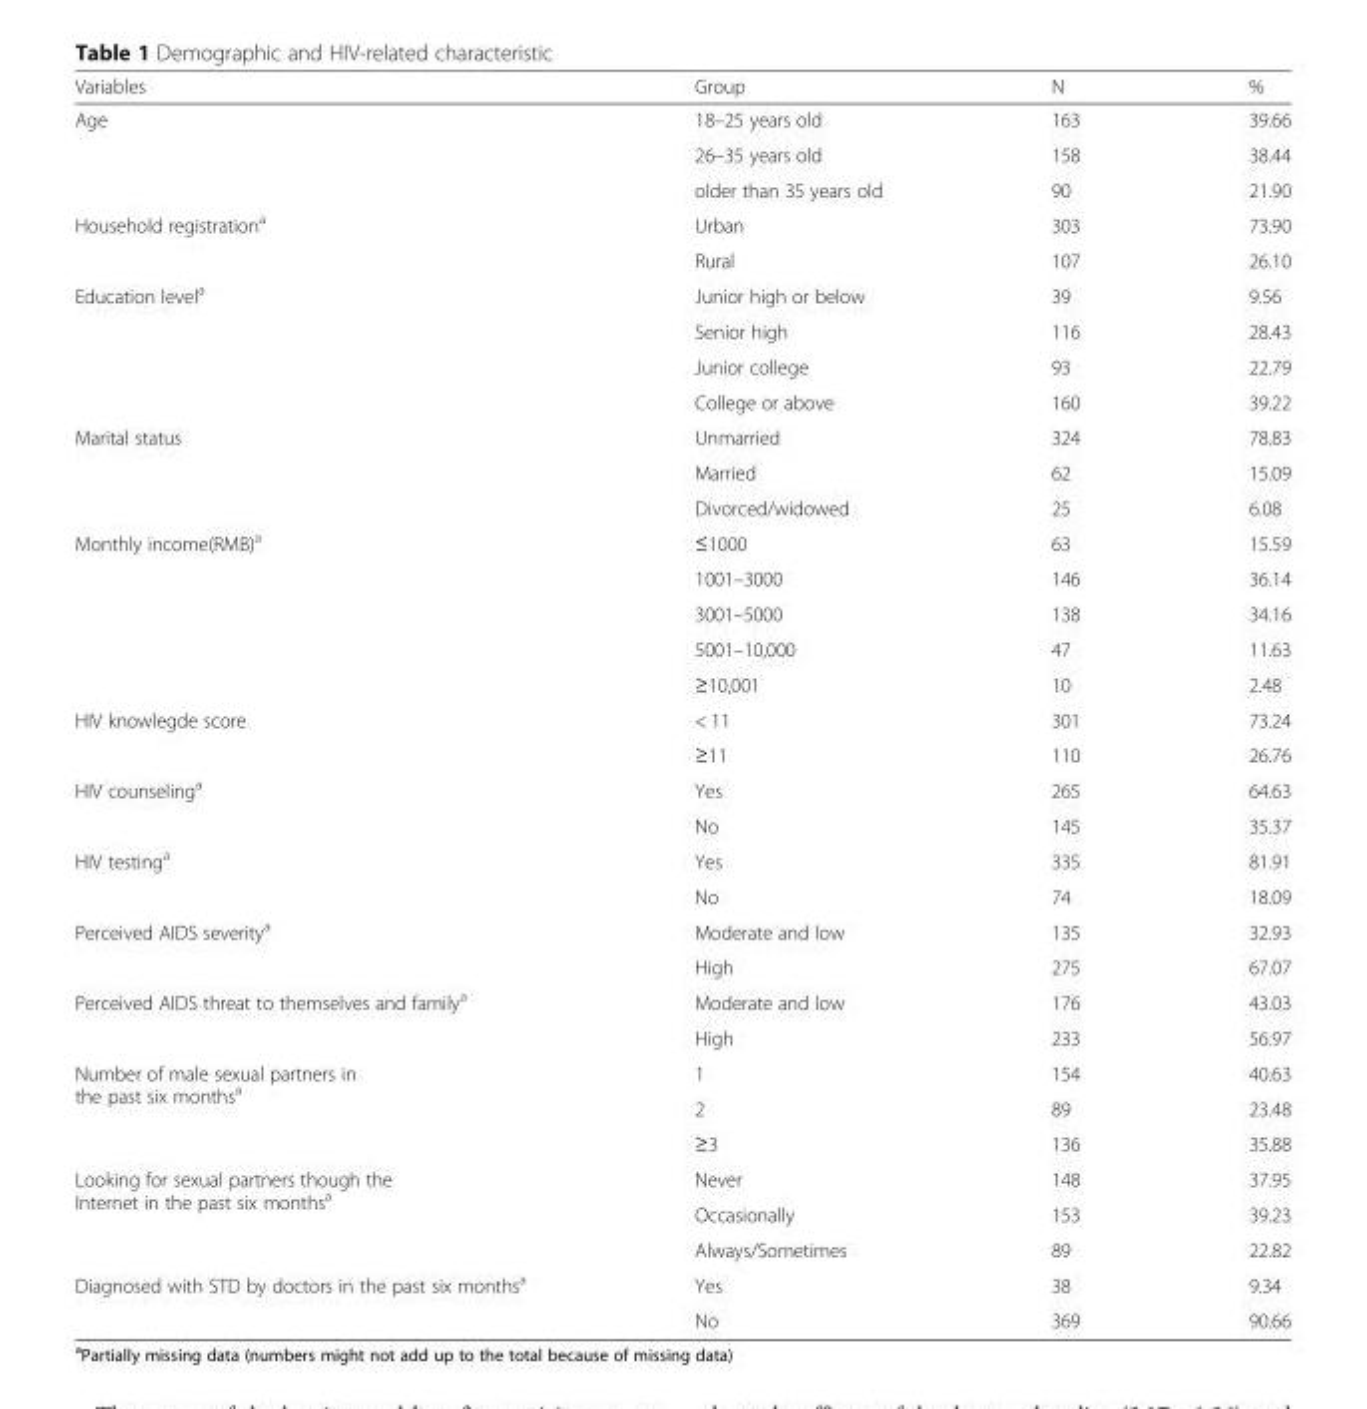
<table><thead><tr><td>Variables</td><td>Group</td><td>N</td><td>%</td></tr></thead><tbody><tr><td rowspan="3">Age</td><td>18–25 years old</td><td>163</td><td>39.66</td></tr><tr><td>26–35 years old</td><td>158</td><td>38.44</td></tr><tr><td>older than 35 years old</td><td>90</td><td>21.90</td></tr><tr><td rowspan="2">Household registration<sup>a</sup></td><td>Urban</td><td>303</td><td>73.90</td></tr><tr><td>Rural</td><td>107</td><td>26.10</td></tr><tr><td rowspan="4">Education level<sup>a</sup></td><td>Junior high or below</td><td>39</td><td>9.56</td></tr><tr><td>Senior high</td><td>116</td><td>28.43</td></tr><tr><td>Junior college</td><td>93</td><td>22.79</td></tr><tr><td>College or above</td><td>160</td><td>39.22</td></tr><tr><td rowspan="3">Marital status</td><td>Unmarried</td><td>324</td><td>78.83</td></tr><tr><td>Married</td><td>62</td><td>15.09</td></tr><tr><td>Divorced/widowed</td><td>25</td><td>6.08</td></tr><tr><td rowspan="5">Monthly income(RMB)<sup>a</sup></td><td>≤1000</td><td>63</td><td>15.59</td></tr><tr><td>1001–3000</td><td>146</td><td>36.14</td></tr><tr><td>3001–5000</td><td>138</td><td>34.16</td></tr><tr><td>5001–10,000</td><td>47</td><td>11.63</td></tr><tr><td>≥10,001</td><td>10</td><td>2.48</td></tr><tr><td rowspan="2">HIV knowlegde score</td><td>&lt; 11</td><td>301</td><td>73.24</td></tr><tr><td>≥11</td><td>110</td><td>26.76</td></tr><tr><td rowspan="2">HIV counseling<sup>a</sup></td><td>Yes</td><td>265</td><td>64.63</td></tr><tr><td>No</td><td>145</td><td>35.37</td></tr><tr><td rowspan="2">HIV testing<sup>a</sup></td><td>Yes</td><td>335</td><td>81.91</td></tr><tr><td>No</td><td>74</td><td>18.09</td></tr><tr><td rowspan="2">Perceived AIDS severity<sup>a</sup></td><td>Moderate and low</td><td>135</td><td>32.93</td></tr><tr><td>High</td><td>275</td><td>67.07</td></tr><tr><td rowspan="2">Perceived AIDS threat to themselves and family<sup>a</sup></td><td>Moderate and low</td><td>176</td><td>43.03</td></tr><tr><td>High</td><td>233</td><td>56.97</td></tr><tr><td rowspan="3">Number of male sexual partners in the past six months<sup>a</sup></td><td>1</td><td>154</td><td>40.63</td></tr><tr><td>2</td><td>89</td><td>23.48</td></tr><tr><td>≥3</td><td>136</td><td>35.88</td></tr><tr><td rowspan="3">Looking for sexual partners though the Internet in the past six months<sup>a</sup></td><td>Never</td><td>148</td><td>37.95</td></tr><tr><td>Occasionally</td><td>153</td><td>39.23</td></tr><tr><td>Always/Sometimes</td><td>89</td><td>22.82</td></tr><tr><td rowspan="2">Diagnosed with STD by doctors in the past six months<sup>a</sup></td><td>Yes</td><td>38</td><td>9.34</td></tr><tr><td>No</td><td>369</td><td>90.66</td></tr></tbody></table>